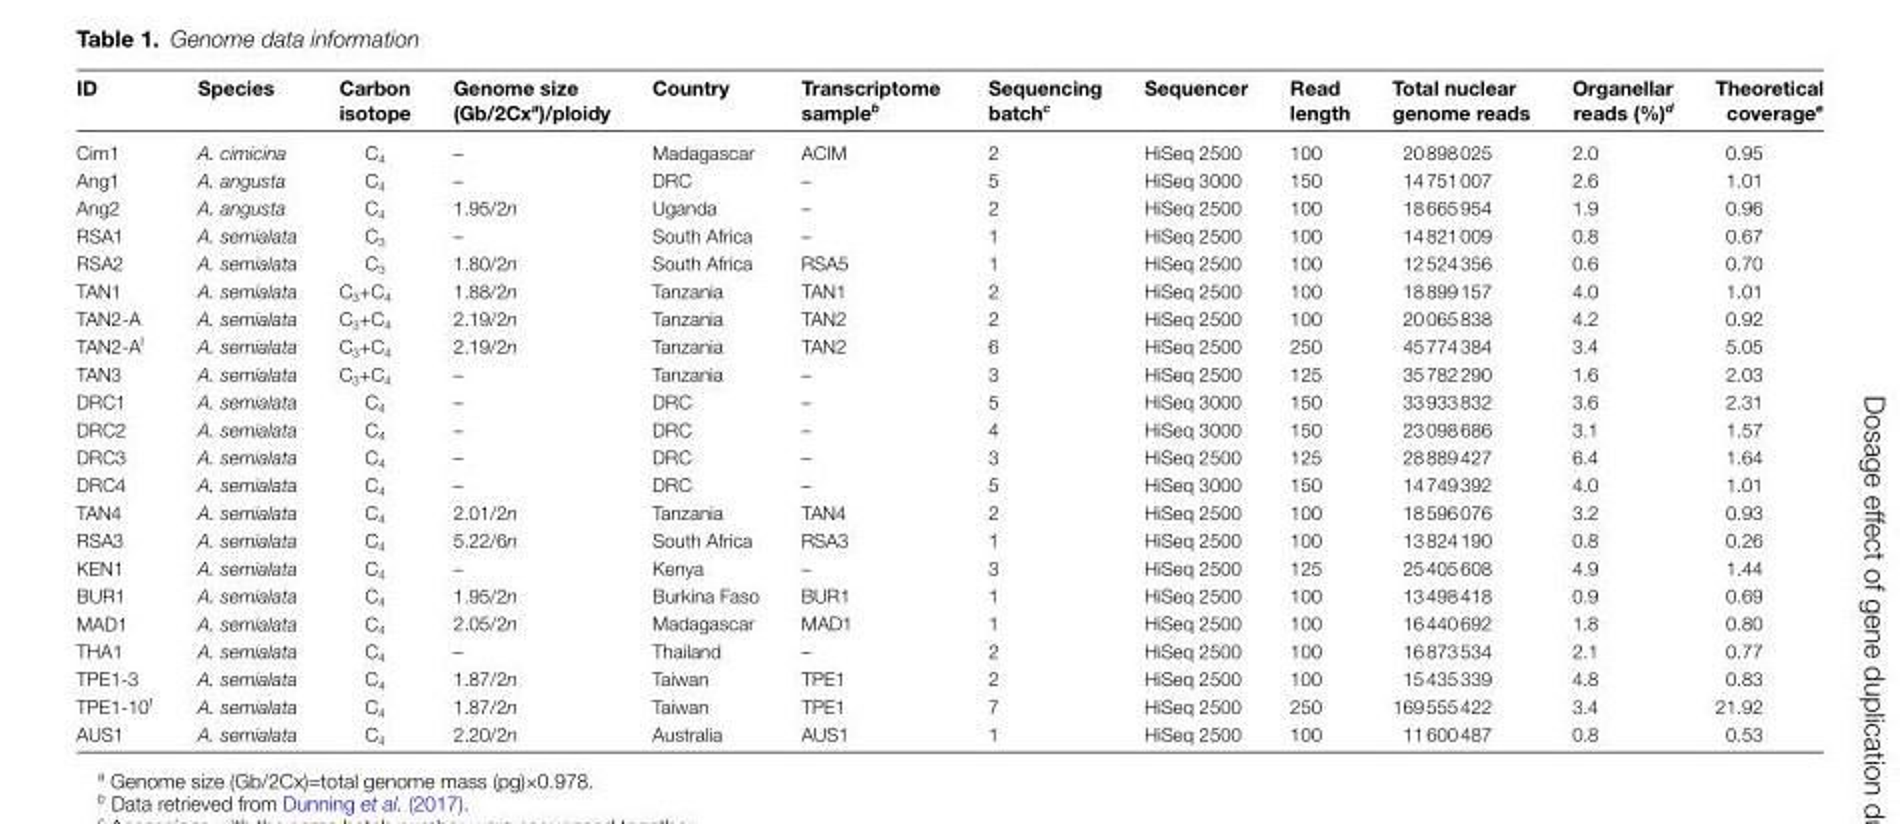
<table><thead><tr><td>ID</td><td>Species</td><td>Carbon isotope</td><td>Genome size (Gb/2Cx<sup>a</sup>)/ploidy</td><td>Country</td><td>Transcriptome sample<sup>b</sup></td><td>Sequencing batch<sup>c</sup></td><td>Sequencer</td><td>Read length</td><td>Total nuclear genome reads</td><td>Organellar reads (%)<sup>d</sup></td><td>Theoretical coverage<sup>e</sup></td></tr></thead><tbody><tr><td>Cim1</td><td>A. cimicina</td><td>C<sub>4</sub></td><td>–</td><td>Madagascar</td><td>ACIM</td><td>2</td><td>HiSeq 2500</td><td>100</td><td>20 898 025</td><td>2.0</td><td>0.95</td></tr><tr><td>Ang1</td><td>A. angusta</td><td>C<sub>4</sub></td><td>–</td><td>DRC</td><td>–</td><td>5</td><td>HiSeq 3000</td><td>150</td><td>14 751 007</td><td>2.6</td><td>1.01</td></tr><tr><td>Ang2</td><td>A. angusta</td><td>C<sub>4</sub></td><td>1.95/2n</td><td>Uganda</td><td>–</td><td>2</td><td>HiSeq 2500</td><td>100</td><td>18 665 954</td><td>1.9</td><td>0.96</td></tr><tr><td>RSA1</td><td>A. semialata</td><td>C<sub>3</sub></td><td>–</td><td>South Africa</td><td>–</td><td>1</td><td>HiSeq 2500</td><td>100</td><td>14 821 009</td><td>0.8</td><td>0.67</td></tr><tr><td>RSA2</td><td>A. semialata</td><td>C<sub>3</sub></td><td>1.80/2n</td><td>South Africa</td><td>RSA5</td><td>1</td><td>HiSeq 2500</td><td>100</td><td>12 524 356</td><td>0.6</td><td>0.70</td></tr><tr><td>TAN1</td><td>A. semialata</td><td>C<sub>3</sub>+C<sub>4</sub></td><td>1.88/2n</td><td>Tanzania</td><td>TAN1</td><td>2</td><td>HiSeq 2500</td><td>100</td><td>18 899 157</td><td>4.0</td><td>1.01</td></tr><tr><td>TAN2-A</td><td>A. semialata</td><td>C<sub>3</sub>+C<sub>4</sub></td><td>2.19/2n</td><td>Tanzania</td><td>TAN2</td><td>2</td><td>HiSeq 2500</td><td>100</td><td>20 065 838</td><td>4.2</td><td>0.92</td></tr><tr><td>TAN2-A<sup>f</sup></td><td>A. semialata</td><td>C<sub>3</sub>+C<sub>4</sub></td><td>2.19/2n</td><td>Tanzania</td><td>TAN2</td><td>6</td><td>HiSeq 2500</td><td>250</td><td>45 774 384</td><td>3.4</td><td>5.05</td></tr><tr><td>TAN3</td><td>A. semialata</td><td>C<sub>3</sub>+C<sub>4</sub></td><td>–</td><td>Tanzania</td><td>–</td><td>3</td><td>HiSeq 2500</td><td>125</td><td>35 782 290</td><td>1.6</td><td>2.03</td></tr><tr><td>DRC1</td><td>A. semialata</td><td>C<sub>4</sub></td><td>–</td><td>DRC</td><td>–</td><td>5</td><td>HiSeq 3000</td><td>150</td><td>33 933 832</td><td>3.6</td><td>2.31</td></tr><tr><td>DRC2</td><td>A. semialata</td><td>C<sub>4</sub></td><td>–</td><td>DRC</td><td>–</td><td>4</td><td>HiSeq 3000</td><td>150</td><td>23 098 686</td><td>3.1</td><td>1.57</td></tr><tr><td>DRC3</td><td>A. semialata</td><td>C<sub>4</sub></td><td>–</td><td>DRC</td><td>–</td><td>3</td><td>HiSeq 2500</td><td>125</td><td>28 889 427</td><td>6.4</td><td>1.64</td></tr><tr><td>DRC4</td><td>A. semialata</td><td>C<sub>4</sub></td><td>–</td><td>DRC</td><td>–</td><td>5</td><td>HiSeq 3000</td><td>150</td><td>14 749 392</td><td>4.0</td><td>1.01</td></tr><tr><td>TAN4</td><td>A. semialata</td><td>C<sub>4</sub></td><td>2.01/2n</td><td>Tanzania</td><td>TAN4</td><td>2</td><td>HiSeq 2500</td><td>100</td><td>18 596 076</td><td>3.2</td><td>0.93</td></tr><tr><td>RSA3</td><td>A. semialata</td><td>C<sub>4</sub></td><td>5.22/6n</td><td>South Africa</td><td>RSA3</td><td>1</td><td>HiSeq 2500</td><td>100</td><td>13 824 190</td><td>0.8</td><td>0.26</td></tr><tr><td>KEN1</td><td>A. semialata</td><td>C<sub>4</sub></td><td>–</td><td>Kenya</td><td>–</td><td>3</td><td>HiSeq 2500</td><td>125</td><td>25 405 608</td><td>4.9</td><td>1.44</td></tr><tr><td>BUR1</td><td>A. semialata</td><td>C<sub>4</sub></td><td>1.95/2n</td><td>Burkina Faso</td><td>BUR1</td><td>1</td><td>HiSeq 2500</td><td>100</td><td>13 498 418</td><td>0.9</td><td>0.69</td></tr><tr><td>MAD1</td><td>A. semialata</td><td>C<sub>4</sub></td><td>2.05/2n</td><td>Madagascar</td><td>MAD1</td><td>1</td><td>HiSeq 2500</td><td>100</td><td>16 440 692</td><td>1.8</td><td>0.80</td></tr><tr><td>THA1</td><td>A. semialata</td><td>C<sub>4</sub></td><td>–</td><td>Thailand</td><td>–</td><td>2</td><td>HiSeq 2500</td><td>100</td><td>16 873 534</td><td>2.1</td><td>0.77</td></tr><tr><td>TPE1-3</td><td>A. semialata</td><td>C<sub>4</sub></td><td>1.87/2n</td><td>Taiwan</td><td>TPE1</td><td>2</td><td>HiSeq 2500</td><td>100</td><td>15 435 339</td><td>4.8</td><td>0.83</td></tr><tr><td>TPE1-10<sup>f</sup></td><td>A. semialata</td><td>C<sub>4</sub></td><td>1.87/2n</td><td>Taiwan</td><td>TPE1</td><td>7</td><td>HiSeq 2500</td><td>250</td><td>169 555 422</td><td>3.4</td><td>21.92</td></tr><tr><td>AUS1</td><td>A. semialata</td><td>C<sub>4</sub></td><td>2.20/2n</td><td>Australia</td><td>AUS1</td><td>1</td><td>HiSeq 2500</td><td>100</td><td>11 600 487</td><td>0.8</td><td>0.53</td></tr></tbody></table>